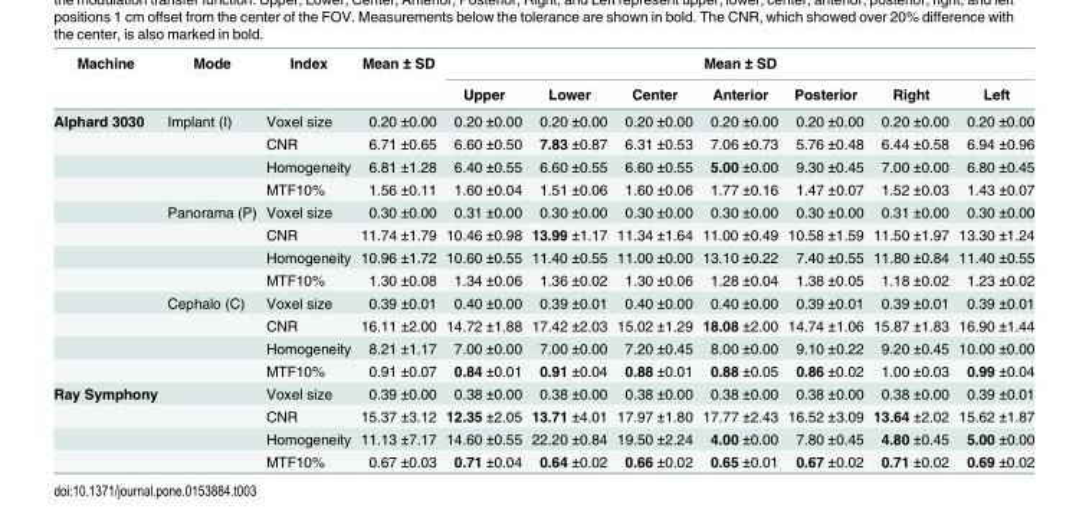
<table><thead><tr><td rowspan="2">Machine</td><td rowspan="2">Mode</td><td rowspan="2">Index</td><td rowspan="2">Mean ± SD</td><td colspan="7">Mean ± SD</td></tr><tr><td>Upper</td><td>Lower</td><td>Center</td><td>Anterior</td><td>Posterior</td><td>Right</td><td>Left</td></tr></thead><tbody><tr><td rowspan="12">Alphard 3030</td><td>Implant (I)</td><td>Voxel size</td><td>0.20 ±0.00</td><td>0.20 ±0.00</td><td>0.20 ±0.00</td><td>0.20 ±0.00</td><td>0.20 ±0.00</td><td>0.20 ±0.00</td><td>0.20 ±0.00</td><td>0.20 ±0.00</td></tr><tr><td></td><td>CNR</td><td>6.71 ±0.65</td><td>6.60 ±0.50</td><td>7.83 ±0.87</td><td>6.31 ±0.53</td><td>7.06 ±0.73</td><td>5.76 ±0.48</td><td>6.44 ±0.58</td><td>6.94 ±0.96</td></tr><tr><td></td><td>Homogeneity</td><td>6.81 ±1.28</td><td>6.40 ±0.55</td><td>6.60 ±0.55</td><td>6.60 ±0.55</td><td>5.00 ±0.00</td><td>9.30 ±0.45</td><td>7.00 ±0.00</td><td>6.80 ±0.45</td></tr><tr><td></td><td>MTF10%</td><td>1.56 ±0.11</td><td>1.60 ±0.04</td><td>1.51 ±0.06</td><td>1.60 ±0.06</td><td>1.77 ±0.16</td><td>1.47 ±0.07</td><td>1.52 ±0.03</td><td>1.43 ±0.07</td></tr><tr><td>Panorama (P)</td><td>Voxel size</td><td>0.30 ±0.00</td><td>0.31 ±0.00</td><td>0.30 ±0.00</td><td>0.30 ±0.00</td><td>0.30 ±0.00</td><td>0.30 ±0.00</td><td>0.31 ±0.00</td><td>0.30 ±0.00</td></tr><tr><td></td><td>CNR</td><td>11.74 ±1.79</td><td>10.46 ±0.98</td><td>13.99 ±1.17</td><td>11.34 ±1.64</td><td>11.00 ±0.49</td><td>10.58 ±1.59</td><td>11.50 ±1.97</td><td>13.30 ±1.24</td></tr><tr><td></td><td>Homogeneity</td><td>10.96 ±1.72</td><td>10.60 ±0.55</td><td>11.40 ±0.55</td><td>11.00 ±0.00</td><td>13.10 ±0.22</td><td>7.40 ±0.55</td><td>11.80 ±0.84</td><td>11.40 ±0.55</td></tr><tr><td></td><td>MTF10%</td><td>1.30 ±0.08</td><td>1.34 ±0.06</td><td>1.36 ±0.02</td><td>1.30 ±0.06</td><td>1.28 ±0.04</td><td>1.38 ±0.05</td><td>1.18 ±0.02</td><td>1.23 ±0.02</td></tr><tr><td>Cephalo (C)</td><td>Voxel size</td><td>0.39 ±0.01</td><td>0.40 ±0.00</td><td>0.39 ±0.01</td><td>0.40 ±0.00</td><td>0.40 ±0.00</td><td>0.39 ±0.01</td><td>0.39 ±0.01</td><td>0.39 ±0.01</td></tr><tr><td></td><td>CNR</td><td>16.11 ±2.00</td><td>14.72 ±1.88</td><td>17.42 ±2.03</td><td>15.02 ±1.29</td><td>18.08 ±2.00</td><td>14.74 ±1.06</td><td>15.87 ±1.83</td><td>16.90 ±1.44</td></tr><tr><td></td><td>Homogeneity</td><td>8.21 ±1.17</td><td>7.00 ±0.00</td><td>7.00 ±0.00</td><td>7.20 ±0.45</td><td>8.00 ±0.00</td><td>9.10 ±0.22</td><td>9.20 ±0.45</td><td>10.00 ±0.00</td></tr><tr><td></td><td>MTF10%</td><td>0.91 ±0.07</td><td>0.84 ±0.01</td><td>0.91 ±0.04</td><td>0.88 ±0.01</td><td>0.88 ±0.05</td><td>0.86 ±0.02</td><td>1.00 ±0.03</td><td>0.99 ±0.04</td></tr><tr><td rowspan="4">Ray Symphony</td><td></td><td>Voxel size</td><td>0.39 ±0.00</td><td>0.38 ±0.00</td><td>0.38 ±0.00</td><td>0.38 ±0.00</td><td>0.38 ±0.00</td><td>0.38 ±0.00</td><td>0.38 ±0.00</td><td>0.39 ±0.01</td></tr><tr><td></td><td>CNR</td><td>15.37 ±3.12</td><td>12.35 ±2.05</td><td>13.71 ±4.01</td><td>17.97 ±1.80</td><td>17.77 ±2.43</td><td>16.52 ±3.09</td><td>13.64 ±2.02</td><td>15.62 ±1.87</td></tr><tr><td></td><td>Homogeneity</td><td>11.13 ±7.17</td><td>14.60 ±0.55</td><td>22.20 ±0.84</td><td>19.50 ±2.24</td><td>4.00 ±0.00</td><td>7.80 ±0.45</td><td>4.80 ±0.45</td><td>5.00 ±0.00</td></tr><tr><td></td><td>MTF10%</td><td>0.67 ±0.03</td><td>0.71 ±0.04</td><td>0.64 ±0.02</td><td>0.66 ±0.02</td><td>0.65 ±0.01</td><td>0.67 ±0.02</td><td>0.71 ±0.02</td><td>0.69 ±0.02</td></tr></tbody></table>